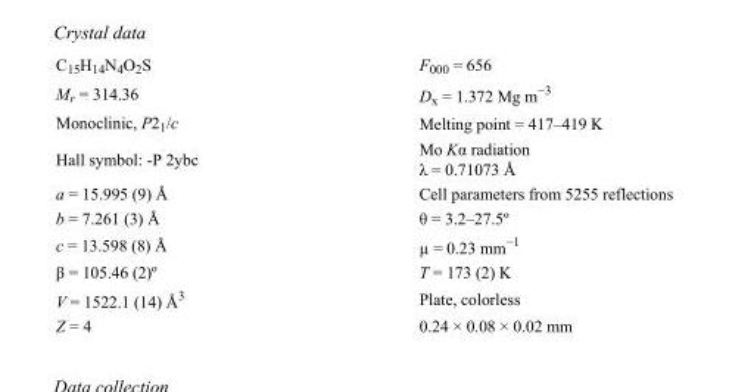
<table><tbody><tr><td>C<sub>15</sub>H<sub>14</sub>N<sub>4</sub>O<sub>2</sub>S</td><td>F<sub>000</sub> = 656</td></tr><tr><td>M<sub>r</sub> = 314.36</td><td>D<sub>x</sub> = 1.372 Mg m<sup>−3</sup></td></tr><tr><td>Monoclinic, P2<sub>1</sub>/c</td><td>Melting point = 417–419 K</td></tr><tr><td>Hall symbol: -P 2ybc</td><td>Mo Kα radiation λ = 0.71073 Å</td></tr><tr><td>a = 15.995 (9) Å</td><td>Cell parameters from 5255 reflections</td></tr><tr><td>b = 7.261 (3) Å</td><td>θ = 3.2–27.5º</td></tr><tr><td>c = 13.598 (8) Å</td><td>µ = 0.23 mm<sup>−1</sup></td></tr><tr><td>β = 105.46 (2)º</td><td>T = 173 (2) K</td></tr><tr><td>V = 1522.1 (14) Å<sup>3</sup></td><td>Plate, colorless</td></tr><tr><td>Z = 4</td><td>0.24 × 0.08 × 0.02 mm</td></tr></tbody></table>